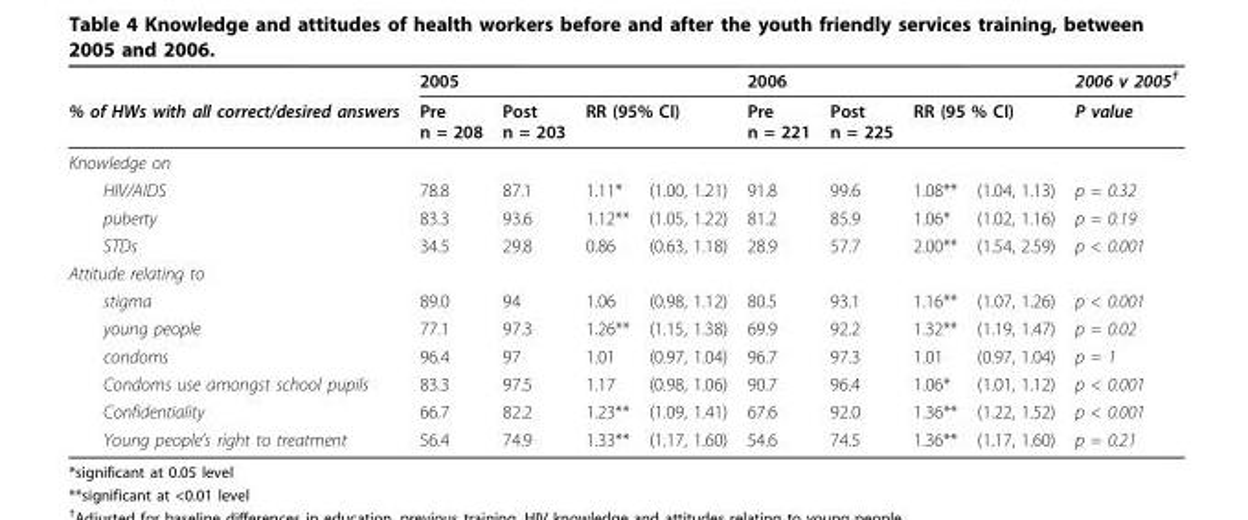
<table><thead><tr><td rowspan="3">% of HWs with all correct/desired answers Knowledge on</td><td colspan="4">2005</td><td colspan="4">2006</td><td rowspan="3">2006 v 2005<sup>†</sup> P value</td></tr><tr><td rowspan="2">Pre n = 208</td><td rowspan="2">Post n = 203</td><td colspan="2">RR (95% CI)</td><td rowspan="2">Pre n = 221</td><td rowspan="2">Post n = 225</td><td colspan="2">RR (95 % CI)</td></tr><tr><td></td><td></td><td></td><td></td></tr></thead><tbody><tr><td>HIV/AIDS</td><td>78.8</td><td>87.1</td><td>1.11*</td><td>(1.00, 1.21)</td><td>91.8</td><td>99.6</td><td>1.08**</td><td>(1.04, 1.13)</td><td>p = 0.32</td></tr><tr><td>puberty</td><td>83.3</td><td>93.6</td><td>1.12**</td><td>(1.05, 1.22)</td><td>81.2</td><td>85.9</td><td>1.06*</td><td>(1.02, 1.16)</td><td>p = 0.19</td></tr><tr><td>STDs</td><td>34.5</td><td>29.8</td><td>0.86</td><td>(0.63, 1.18)</td><td>28.9</td><td>57.7</td><td>2.00**</td><td>(1.54, 2.59)</td><td>p &lt; 0.001</td></tr><tr><td colspan="10">Attitude relating to</td></tr><tr><td>stigma</td><td>89.0</td><td>94</td><td>1.06</td><td>(0.98, 1.12)</td><td>80.5</td><td>93.1</td><td>1.16**</td><td>(1.07, 1.26)</td><td>p &lt; 0.001</td></tr><tr><td>young people</td><td>77.1</td><td>97.3</td><td>1.26**</td><td>(1.15, 1.38)</td><td>69.9</td><td>92.2</td><td>1.32**</td><td>(1.19, 1.47)</td><td>p = 0.02</td></tr><tr><td>condoms</td><td>96.4</td><td>97</td><td>1.01</td><td>(0.97, 1.04)</td><td>96.7</td><td>97.3</td><td>1.01</td><td>(0.97, 1.04)</td><td>p = 1</td></tr><tr><td>Condoms use amongst school pupils</td><td>83.3</td><td>97.5</td><td>1.17</td><td>(0.98, 1.06)</td><td>90.7</td><td>96.4</td><td>1.06*</td><td>(1.01, 1.12)</td><td>p &lt; 0.001</td></tr><tr><td>Confidentiality</td><td>66.7</td><td>82.2</td><td>1.23**</td><td>(1.09, 1.41)</td><td>67.6</td><td>92.0</td><td>1.36**</td><td>(1.22, 1.52)</td><td>p &lt; 0.001</td></tr><tr><td>Young people’s right to treatment</td><td>56.4</td><td>74.9</td><td>1.33**</td><td>(1.17, 1.60)</td><td>54.6</td><td>74.5</td><td>1.36**</td><td>(1.17, 1.60)</td><td>p = 0.21</td></tr></tbody></table>